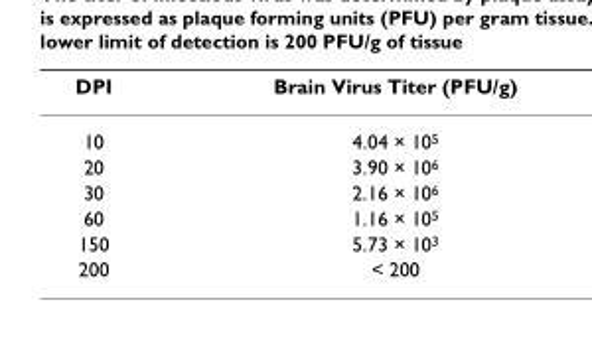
<table><thead><tr><td>DPI</td><td>Brain Virus Titer (PFU/g)</td></tr></thead><tbody><tr><td>10</td><td>4.04 × 10<sup>5</sup></td></tr><tr><td>20</td><td>3.90 × 10<sup>6</sup></td></tr><tr><td>30</td><td>2.16 × 10<sup>6</sup></td></tr><tr><td>60</td><td>1.16 × 10<sup>5</sup></td></tr><tr><td>150</td><td>5.73 × 10<sup>3</sup></td></tr><tr><td>200</td><td>&lt; 200</td></tr></tbody></table>